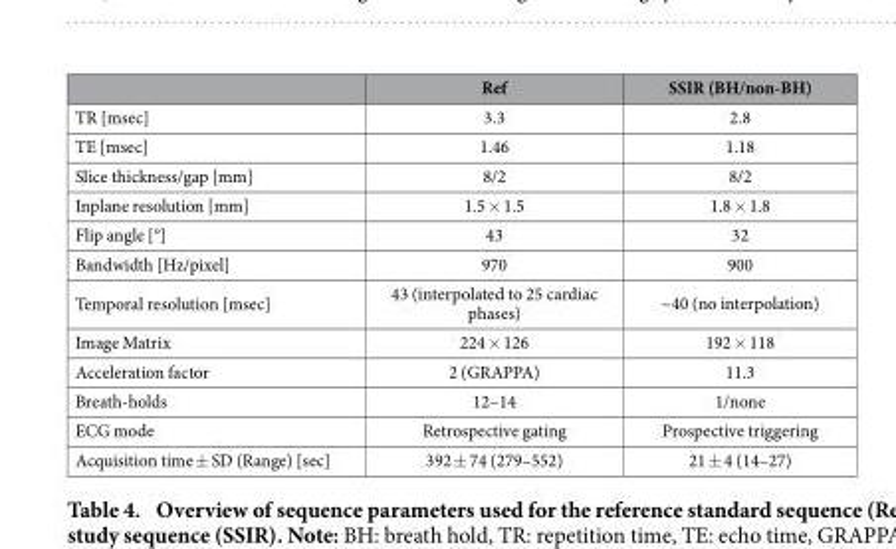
<table><thead><tr><td></td><td>Ref</td><td>SSIR (BH/non-BH)</td></tr></thead><tbody><tr><td>TR [msec]</td><td>3.3</td><td>2.8</td></tr><tr><td>TE [msec]</td><td>1.46</td><td>1.18</td></tr><tr><td>Slice thickness/gap [mm]</td><td>8/2</td><td>8/2</td></tr><tr><td>Inplane resolution [mm]</td><td>1.5 × 1.5</td><td>1.8 × 1.8</td></tr><tr><td>Flip angle [°]</td><td>43</td><td>32</td></tr><tr><td>Bandwidth [Hz/pixel]</td><td>970</td><td>900</td></tr><tr><td>Temporal resolution [msec]</td><td>43 (interpolated to 25 cardiac phases)</td><td>~40 (no interpolation)</td></tr><tr><td>Image Matrix</td><td>224 × 126</td><td>192 × 118</td></tr><tr><td>Acceleration factor</td><td>2 (GRAPPA)</td><td>11.3</td></tr><tr><td>Breath-holds</td><td>12–14</td><td>1/none</td></tr><tr><td>ECG mode</td><td>Retrospective gating</td><td>Prospective triggering</td></tr><tr><td>Acquisition time ± SD (Range) [sec]</td><td>392 ± 74 (279–552)</td><td>21 ± 4 (14–27)</td></tr></tbody></table>